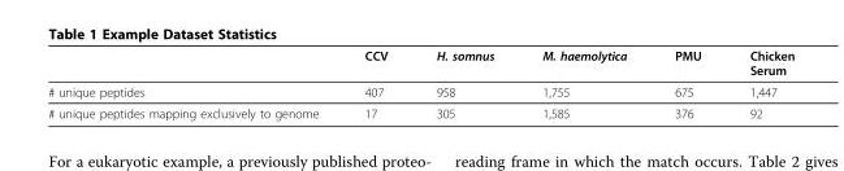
<table><thead><tr><td></td><td>CCV</td><td>H. somnus</td><td>M. haemolytica</td><td>PMU</td><td>Chicken Serum</td></tr></thead><tbody><tr><td># unique peptides</td><td>407</td><td>958</td><td>1,755</td><td>675</td><td>1,447</td></tr><tr><td># unique peptides mapping exclusively to genome</td><td>17</td><td>305</td><td>1,585</td><td>376</td><td>92</td></tr></tbody></table>